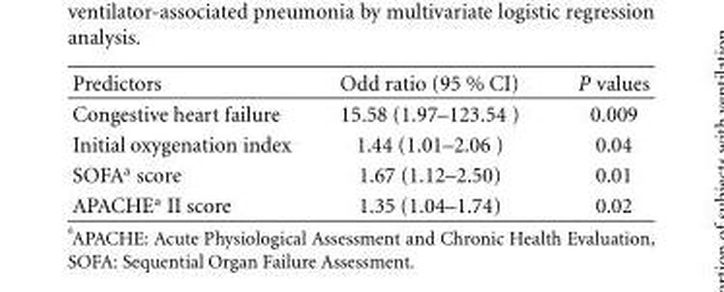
<table><thead><tr><td>Predictors</td><td>Odd ratio (95 % CI)</td><td>P values</td></tr></thead><tbody><tr><td>Congestive heart failure</td><td>15.58 (1.97–123.54 )</td><td>0.009</td></tr><tr><td>Initial oxygenation index</td><td>1.44 (1.01–2.06 )</td><td>0.04</td></tr><tr><td>SOFA<sup>a</sup> score</td><td>1.67 (1.12–2.50)</td><td>0.01</td></tr><tr><td>APACHE<sup>a</sup> II score</td><td>1.35 (1.04–1.74)</td><td>0.02</td></tr></tbody></table>